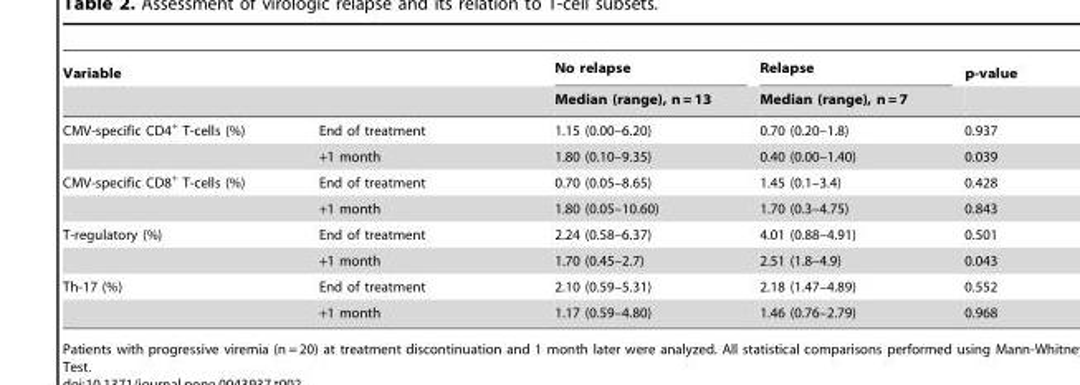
<table><thead><tr><td rowspan="2">Variable</td><td rowspan="2"></td><td rowspan="2">No relapse Median (range), n = 13</td><td rowspan="2">Relapse Median (range), n = 7</td><td rowspan="2">p-value</td></tr><tr></tr></thead><tbody><tr><td rowspan="2">CMV-specific CD4<sup>+</sup> T-cells (%)</td><td>End of treatment</td><td>1.15 (0.00–6.20)</td><td>0.70 (0.20–1.8)</td><td>0.937</td></tr><tr><td>+1 month</td><td>1.80 (0.10–9.35)</td><td>0.40 (0.00–1.40)</td><td>0.039</td></tr><tr><td rowspan="2">CMV-specific CD8<sup>+</sup> T-cells (%)</td><td>End of treatment</td><td>0.70 (0.05–8.65)</td><td>1.45 (0.1–3.4)</td><td>0.428</td></tr><tr><td>+1 month</td><td>1.80 (0.05–10.60)</td><td>1.70 (0.3–4.75)</td><td>0.843</td></tr><tr><td rowspan="2">T-regulatory (%)</td><td>End of treatment</td><td>2.24 (0.58–6.37)</td><td>4.01 (0.88–4.91)</td><td>0.501</td></tr><tr><td>+1 month</td><td>1.70 (0.45–2.7)</td><td>2.51 (1.8–4.9)</td><td>0.043</td></tr><tr><td rowspan="2">Th-17 (%)</td><td>End of treatment</td><td>2.10 (0.59–5.31)</td><td>2.18 (1.47–4.89)</td><td>0.552</td></tr><tr><td>+1 month</td><td>1.17 (0.59–4.80)</td><td>1.46 (0.76–2.79)</td><td>0.968</td></tr></tbody></table>